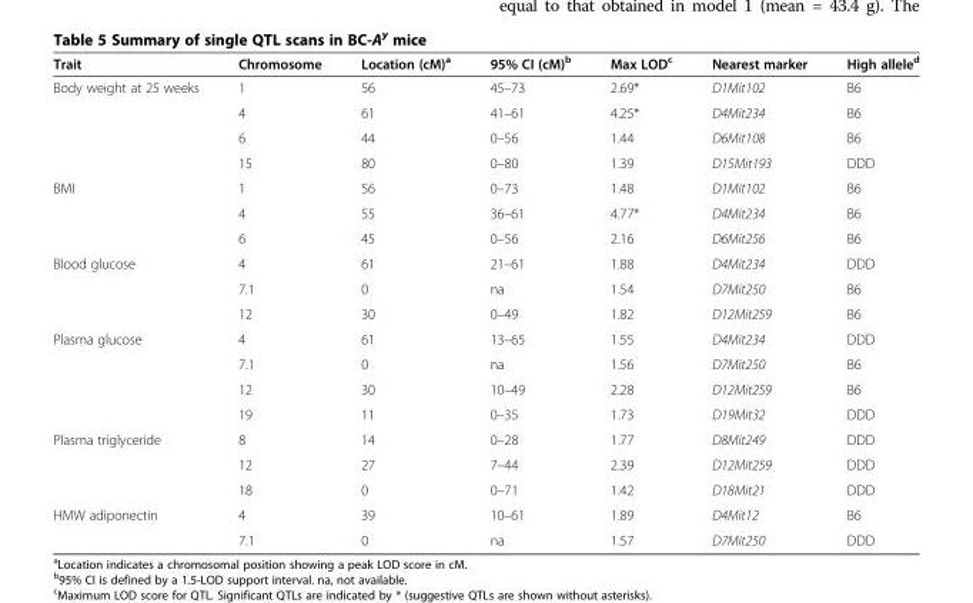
<table><thead><tr><td>Trait</td><td>Chromosome</td><td>Location (cM)<sup>a</sup></td><td>95% CI (cM)<sup>b</sup></td><td>Max LOD<sup>c</sup></td><td>Nearest marker</td><td>High allele<sup>d</sup></td></tr></thead><tbody><tr><td rowspan="4">Body weight at 25 weeks</td><td>1</td><td>56</td><td>45–73</td><td>2.69*</td><td>D1Mit102</td><td>B6</td></tr><tr><td>4</td><td>61</td><td>41–61</td><td>4.25*</td><td>D4Mit234</td><td>B6</td></tr><tr><td>6</td><td>44</td><td>0–56</td><td>1.44</td><td>D6Mit108</td><td>B6</td></tr><tr><td>15</td><td>80</td><td>0–80</td><td>1.39</td><td>D15Mit193</td><td>DDD</td></tr><tr><td rowspan="3">BMI</td><td>1</td><td>56</td><td>0–73</td><td>1.48</td><td>D1Mit102</td><td>B6</td></tr><tr><td>4</td><td>55</td><td>36–61</td><td>4.77*</td><td>D4Mit234</td><td>B6</td></tr><tr><td>6</td><td>45</td><td>0–56</td><td>2.16</td><td>D6Mit256</td><td>B6</td></tr><tr><td rowspan="3">Blood glucose</td><td>4</td><td>61</td><td>21–61</td><td>1.88</td><td>D4Mit234</td><td>DDD</td></tr><tr><td>7.1</td><td>0</td><td>na</td><td>1.54</td><td>D7Mit250</td><td>B6</td></tr><tr><td>12</td><td>30</td><td>0–49</td><td>1.82</td><td>D12Mit259</td><td>B6</td></tr><tr><td rowspan="4">Plasma glucose</td><td>4</td><td>61</td><td>13–65</td><td>1.55</td><td>D4Mit234</td><td>DDD</td></tr><tr><td>7.1</td><td>0</td><td>na</td><td>1.56</td><td>D7Mit250</td><td>B6</td></tr><tr><td>12</td><td>30</td><td>10–49</td><td>2.28</td><td>D12Mit259</td><td>B6</td></tr><tr><td>19</td><td>11</td><td>0–35</td><td>1.73</td><td>D19Mit32</td><td>DDD</td></tr><tr><td rowspan="3">Plasma triglyceride</td><td>8</td><td>14</td><td>0–28</td><td>1.77</td><td>D8Mit249</td><td>DDD</td></tr><tr><td>12</td><td>27</td><td>7–44</td><td>2.39</td><td>D12Mit259</td><td>DDD</td></tr><tr><td>18</td><td>0</td><td>0–71</td><td>1.42</td><td>D18Mit21</td><td>DDD</td></tr><tr><td rowspan="2">HMW adiponectin</td><td>4</td><td>39</td><td>10–61</td><td>1.89</td><td>D4Mit12</td><td>B6</td></tr><tr><td>7.1</td><td>0</td><td>na</td><td>1.57</td><td>D7Mit250</td><td>DDD</td></tr></tbody></table>